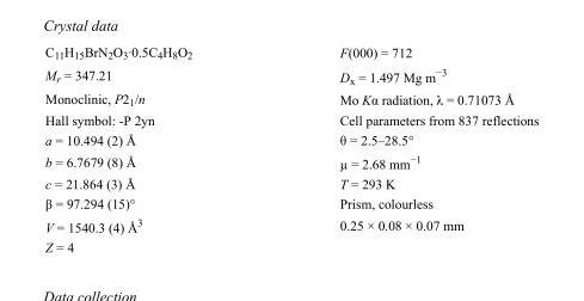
<table><tbody><tr><td>C<sub>11</sub>H<sub>15</sub>BrN<sub>2</sub>O<sub>3</sub>·0.5C<sub>4</sub>H<sub>8</sub>O<sub>2</sub></td><td>F(000) = 712</td></tr><tr><td>M<sub>r</sub> = 347.21</td><td>D<sub>x</sub> = 1.497 Mg m<sup>−3</sup></td></tr><tr><td>Monoclinic, P2<sub>1</sub>/n</td><td>Mo Kα radiation, λ = 0.71073 Å</td></tr><tr><td>Hall symbol: -P 2yn</td><td>Cell parameters from 837 reflections</td></tr><tr><td>a = 10.494 (2) Å</td><td>θ = 2.5–28.5°</td></tr><tr><td>b = 6.7679 (8) Å</td><td>µ = 2.68 mm<sup>−1</sup></td></tr><tr><td>c = 21.864 (3) Å</td><td>T = 293 K</td></tr><tr><td>β = 97.294 (15)°</td><td>Prism, colourless</td></tr><tr><td>V = 1540.3 (4) Å<sup>3</sup></td><td>0.25 × 0.08 × 0.07 mm</td></tr><tr><td>Z = 4</td><td></td></tr></tbody></table>